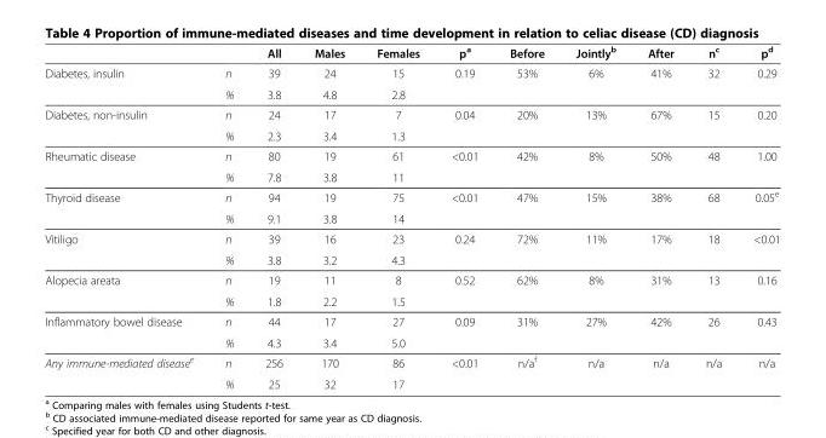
<table><thead><tr><td></td><td></td><td>All</td><td>Males</td><td>Females</td><td>p<sup>a</sup></td><td>Before</td><td>Jointly<sup>b</sup></td><td>After</td><td>n<sup>c</sup></td><td>p<sup>d</sup></td></tr></thead><tbody><tr><td rowspan="2">Diabetes, insulin</td><td>n</td><td>39</td><td>24</td><td>15</td><td rowspan="2">0.19</td><td rowspan="2">53%</td><td rowspan="2">6%</td><td rowspan="2">41%</td><td rowspan="2">32</td><td rowspan="2">0.29</td></tr><tr><td>%</td><td>3.8</td><td>4.8</td><td>2.8</td></tr><tr><td rowspan="2">Diabetes, non-insulin</td><td>n</td><td>24</td><td>17</td><td>7</td><td rowspan="2">0.04</td><td rowspan="2">20%</td><td rowspan="2">13%</td><td rowspan="2">67%</td><td rowspan="2">15</td><td rowspan="2">0.20</td></tr><tr><td>%</td><td>2.3</td><td>3.4</td><td>1.3</td></tr><tr><td rowspan="2">Rheumatic disease</td><td>n</td><td>80</td><td>19</td><td>61</td><td rowspan="2">&lt;0.01</td><td rowspan="2">42%</td><td rowspan="2">8%</td><td rowspan="2">50%</td><td rowspan="2">48</td><td rowspan="2">1.00</td></tr><tr><td>%</td><td>7.8</td><td>3.8</td><td>11</td></tr><tr><td rowspan="2">Thyroid disease</td><td>n</td><td>94</td><td>19</td><td>75</td><td rowspan="2">&lt;0.01</td><td rowspan="2">47%</td><td rowspan="2">15%</td><td rowspan="2">38%</td><td rowspan="2">68</td><td rowspan="2">0.05<sup>e</sup></td></tr><tr><td>%</td><td>9.1</td><td>3.8</td><td>14</td></tr><tr><td rowspan="2">Vitiligo</td><td>n</td><td>39</td><td>16</td><td>23</td><td rowspan="2">0.24</td><td rowspan="2">72%</td><td rowspan="2">11%</td><td rowspan="2">17%</td><td rowspan="2">18</td><td rowspan="2">&lt;0.01</td></tr><tr><td>%</td><td>3.8</td><td>3.2</td><td>4.3</td></tr><tr><td rowspan="2">Alopecia areata</td><td>n</td><td>19</td><td>11</td><td>8</td><td rowspan="2">0.52</td><td rowspan="2">62%</td><td rowspan="2">8%</td><td rowspan="2">31%</td><td rowspan="2">13</td><td rowspan="2">0.16</td></tr><tr><td>%</td><td>1.8</td><td>2.2</td><td>1.5</td></tr><tr><td rowspan="2">Inflammatory bowel disease</td><td>n</td><td>44</td><td>17</td><td>27</td><td rowspan="2">0.09</td><td rowspan="2">31%</td><td rowspan="2">27%</td><td rowspan="2">42%</td><td rowspan="2">26</td><td rowspan="2">0.43</td></tr><tr><td>%</td><td>4.3</td><td>3.4</td><td>5.0</td></tr><tr><td rowspan="2">Any immune-mediated disease<sup>e</sup></td><td>n</td><td>256</td><td>170</td><td>86</td><td rowspan="2">&lt;0.01</td><td rowspan="2">n/a<sup>f</sup></td><td rowspan="2">n/a</td><td rowspan="2">n/a</td><td rowspan="2">n/a</td><td rowspan="2">n/a</td></tr><tr><td>%</td><td>25</td><td>32</td><td>17</td></tr></tbody></table>